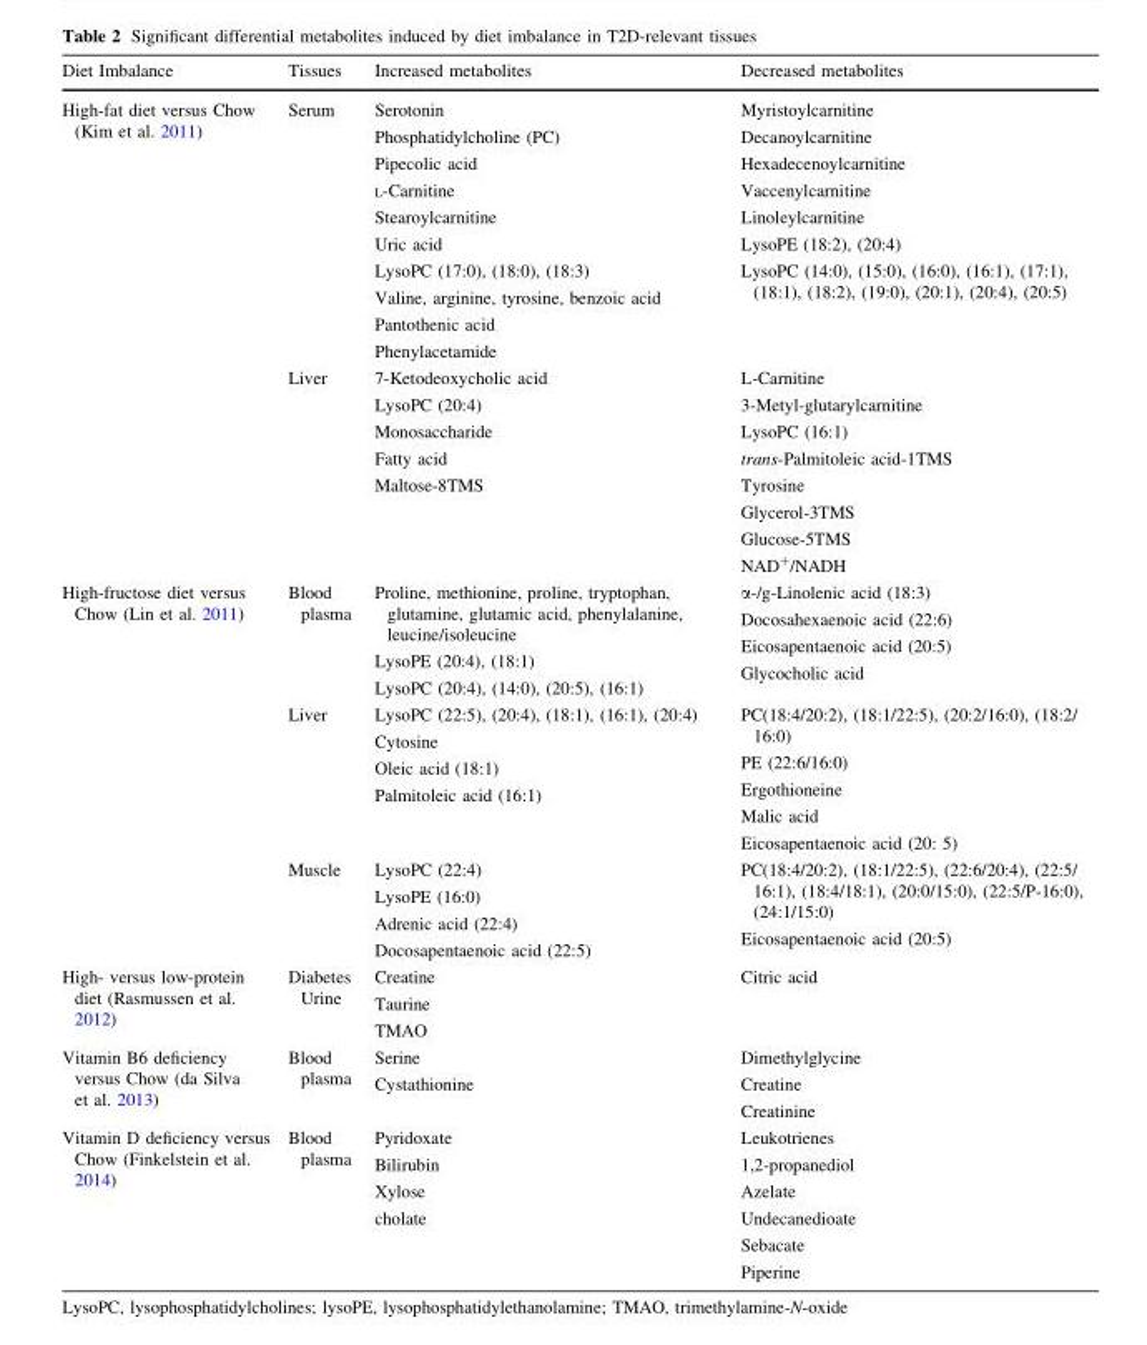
<table><thead><tr><td>Diet Imbalance</td><td>Tissues</td><td>Increased metabolites</td><td>Decreased metabolites</td></tr></thead><tbody><tr><td rowspan="2">High-fat diet versus Chow (Kim et al. 2011)</td><td>Serum</td><td>Serotonin Phosphatidylcholine (PC) Pipecolic acid L-Carnitine Stearoylcarnitine Uric acid LysoPC (17:0), (18:0), (18:3) Valine, arginine, tyrosine, benzoic acid Pantothenic acid Phenylacetamide</td><td>Myristoylcarnitine Decanoylcarnitine Hexadecenoylcarnitine Vaccenylcarnitine Linoleylcarnitine LysoPE (18:2), (20:4) LysoPC (14:0), (15:0), (16:0), (16:1), (17:1), (18:1), (18:2), (19:0), (20:1), (20:4), (20:5)</td></tr><tr><td>Liver</td><td>7-Ketodeoxycholic acid LysoPC (20:4) Monosaccharide Fatty acid Maltose-8TMS</td><td>L-Carnitine 3-Metyl-glutarylcarnitine LysoPC (16:1) trans-Palmitoleic acid-1TMS Tyrosine Glycerol-3TMS Glucose-5TMS NAD<sup>+</sup>/NADH</td></tr><tr><td rowspan="3">High-fructose diet versus Chow (Lin et al. 2011)</td><td>Blood plasma</td><td>Proline, methionine, proline, tryptophan, glutamine, glutamic acid, phenylalanine, leucine/isoleucine LysoPE (20:4), (18:1) LysoPC (20:4), (14:0), (20:5), (16:1)</td><td>α-/g-Linolenic acid (18:3) Docosahexaenoic acid (22:6) Eicosapentaenoic acid (20:5) Glycocholic acid</td></tr><tr><td>Liver</td><td>LysoPC (22:5), (20:4), (18:1), (16:1), (20:4) Cytosine Oleic acid (18:1) Palmitoleic acid (16:1)</td><td>PC(18:4/20:2), (18:1/22:5), (20:2/16:0), (18:2/ 16:0) PE (22:6/16:0) Ergothioneine Malic acid Eicosapentaenoic acid (20: 5)</td></tr><tr><td>Muscle</td><td>LysoPC (22:4) LysoPE (16:0) Adrenic acid (22:4) Docosapentaenoic acid (22:5)</td><td>PC(18:4/20:2), (18:1/22:5), (22:6/20:4), (22:5/ 16:1), (18:4/18:1), (20:0/15:0), (22:5/P-16:0), (24:1/15:0) Eicosapentaenoic acid (20:5)</td></tr><tr><td>High- versus low-protein diet (Rasmussen et al. 2012)</td><td>Diabetes Urine</td><td>Creatine Taurine TMAO</td><td>Citric acid</td></tr><tr><td>Vitamin B6 deficiency versus Chow (da Silva et al. 2013)</td><td>Blood plasma</td><td>Serine Cystathionine</td><td>Dimethylglycine Creatine Creatinine</td></tr><tr><td>Vitamin D deficiency versus Chow (Finkelstein et al. 2014)</td><td>Blood plasma</td><td>Pyridoxate Bilirubin Xylose cholate</td><td>Leukotrienes 1,2-propanediol Azelate Undecanedioate Sebacate Piperine</td></tr></tbody></table>